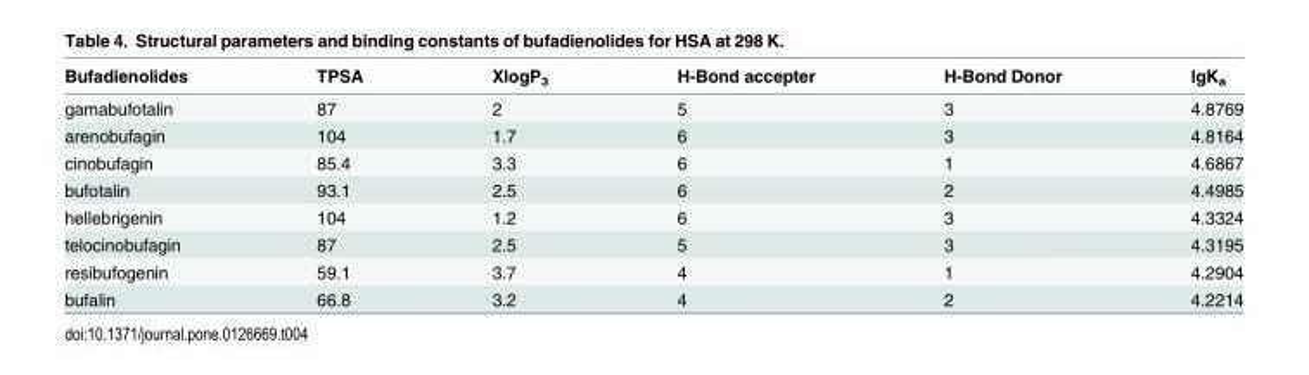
<table><thead><tr><td>Bufadienolides</td><td>TPSA</td><td>XlogP<sub>3</sub></td><td>H-Bond accepter</td><td>H-Bond Donor</td><td>lgK<sub>a</sub></td></tr></thead><tbody><tr><td>gamabufotalin</td><td>87</td><td>2</td><td>5</td><td>3</td><td>4.8769</td></tr><tr><td>arenobufagin</td><td>104</td><td>1.7</td><td>6</td><td>3</td><td>4.8164</td></tr><tr><td>cinobufagin</td><td>85.4</td><td>3.3</td><td>6</td><td>1</td><td>4.6867</td></tr><tr><td>bufotalin</td><td>93.1</td><td>2.5</td><td>6</td><td>2</td><td>4.4985</td></tr><tr><td>hellebrigenin</td><td>104</td><td>1.2</td><td>6</td><td>3</td><td>4.3324</td></tr><tr><td>telocinobufagin</td><td>87</td><td>2.5</td><td>5</td><td>3</td><td>4.3195</td></tr><tr><td>resibufogenin</td><td>59.1</td><td>3.7</td><td>4</td><td>1</td><td>4.2904</td></tr><tr><td>bufalin</td><td>66.8</td><td>3.2</td><td>4</td><td>2</td><td>4.2214</td></tr></tbody></table>